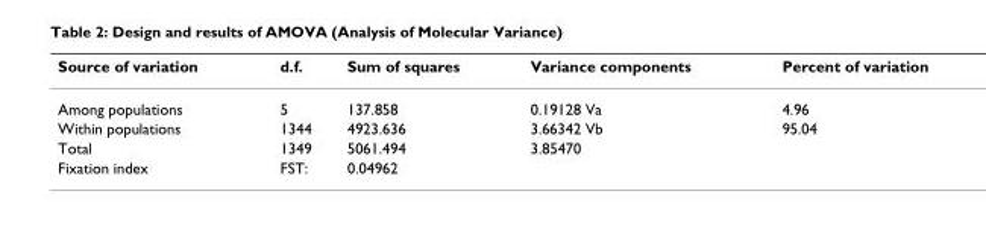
<table><thead><tr><td>Source of variation</td><td>d.f.</td><td>Sum of squares</td><td>Variance components</td><td>Percent of variation</td></tr></thead><tbody><tr><td>Among populations</td><td>5</td><td>137.858</td><td>0.19128 Va</td><td>4.96</td></tr><tr><td>Within populations</td><td>1344</td><td>4923.636</td><td>3.66342 Vb</td><td>95.04</td></tr><tr><td>Total</td><td>1349</td><td>5061.494</td><td>3.85470</td><td></td></tr><tr><td>Fixation index</td><td>FST:</td><td>0.04962</td><td></td><td></td></tr></tbody></table>